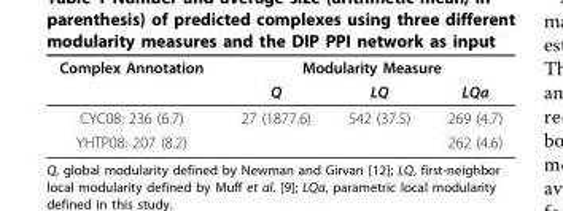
<table><thead><tr><td rowspan="2">Complex Annotation</td><td colspan="3">Modularity Measure</td></tr><tr><td>Q</td><td>LQ</td><td>LQa</td></tr></thead><tbody><tr><td>CYC08: 236 (6.7)</td><td>27 (1877.6)</td><td>542 (37.5)</td><td>269 (4.7)</td></tr><tr><td>YHTP08: 207 (8.2)</td><td></td><td></td><td>262 (4.6)</td></tr></tbody></table>